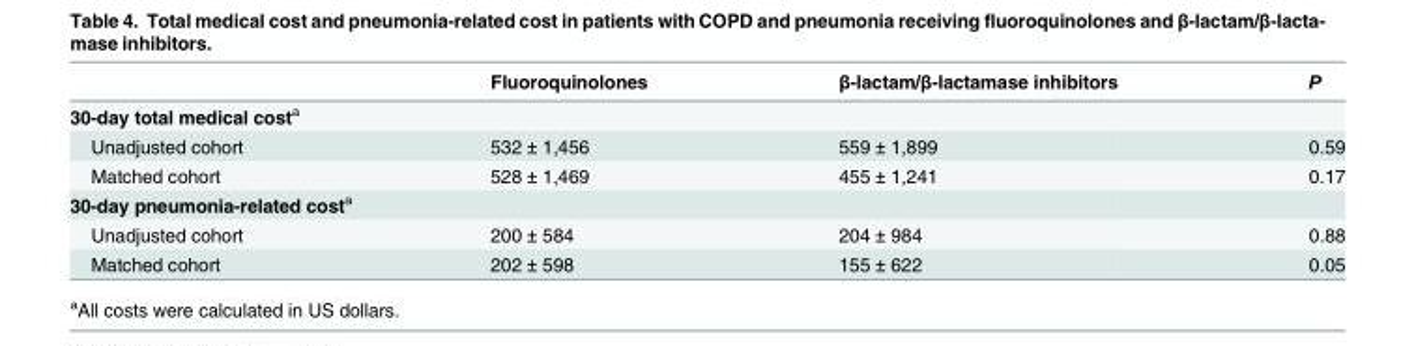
<table><thead><tr><td></td><td>Fluoroquinolones</td><td>β-lactam/β-lactamase inhibitors</td><td>P</td></tr></thead><tbody><tr><td colspan="4">30-day total medical cost<sup>a</sup></td></tr><tr><td>Unadjusted cohort</td><td>532 ± 1,456</td><td>559 ± 1,899</td><td>0.59</td></tr><tr><td>Matched cohort</td><td>528 ± 1,469</td><td>455 ± 1,241</td><td>0.17</td></tr><tr><td colspan="4">30-day pneumonia-related cost<sup>a</sup></td></tr><tr><td>Unadjusted cohort</td><td>200 ± 584</td><td>204 ± 984</td><td>0.88</td></tr><tr><td>Matched cohort</td><td>202 ± 598</td><td>155 ± 622</td><td>0.05</td></tr></tbody></table>